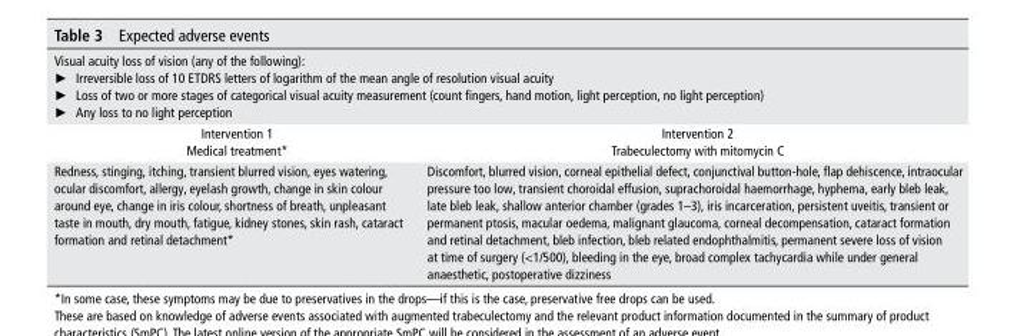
<table><tbody><tr><td colspan="2">Visual acuity loss of vision (any of the following): ► Irreversible loss of 10 ETDRS letters of logarithm of the mean angle of resolution visual acuity ► Loss of two or more stages of categorical visual acuity measurement (count fingers, hand motion, light perception, no light perception) ► Any loss to no light perception</td></tr><tr><td>Intervention 1 Medical treatment*</td><td>Intervention 2 Trabeculectomy with mitomycin C</td></tr><tr><td>Redness, stinging, itching, transient blurred vision, eyes watering, ocular discomfort, allergy, eyelash growth, change in skin colour around eye, change in iris colour, shortness of breath, unpleasant taste in mouth, dry mouth, fatigue, kidney stones, skin rash, cataract formation and retinal detachment*</td><td>Discomfort, blurred vision, corneal epithelial defect, conjunctival button-hole, flap dehiscence, intraocular pressure too low, transient choroidal effusion, suprachoroidal haemorrhage, hyphema, early bleb leak, late bleb leak, shallow anterior chamber (grades 1–3), iris incarceration, persistent uveitis, transient or permanent ptosis, macular oedema, malignant glaucoma, corneal decompensation, cataract formation and retinal detachment, bleb infection, bleb related endophthalmitis, permanent severe loss of vision at time of surgery (&lt;1/500), bleeding in the eye, broad complex tachycardia while under general anaesthetic, postoperative dizziness</td></tr></tbody></table>